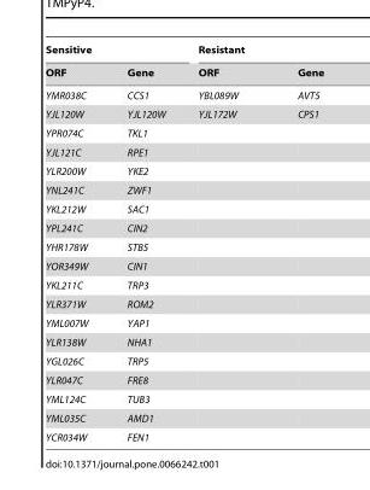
<table><thead><tr><td colspan="2">Sensitive</td><td colspan="2">Resistant</td></tr><tr><td>ORF</td><td>Gene</td><td>ORF</td><td>Gene</td></tr></thead><tbody><tr><td>YMR038C</td><td>CCS1</td><td>YBL089W</td><td>AVT5</td></tr><tr><td>YJL120W</td><td>YJL120W</td><td>YJL172W</td><td>CPS1</td></tr><tr><td>YPR074C</td><td>TKL1</td><td></td><td></td></tr><tr><td>YJL121C</td><td>RPE1</td><td></td><td></td></tr><tr><td>YLR200W</td><td>YKE2</td><td></td><td></td></tr><tr><td>YNL241C</td><td>ZWF1</td><td></td><td></td></tr><tr><td>YKL212W</td><td>SAC1</td><td></td><td></td></tr><tr><td>YPL241C</td><td>CIN2</td><td></td><td></td></tr><tr><td>YHR178W</td><td>STB5</td><td></td><td></td></tr><tr><td>YOR349W</td><td>CIN1</td><td></td><td></td></tr><tr><td>YKL211C</td><td>TRP3</td><td></td><td></td></tr><tr><td>YLR371W</td><td>ROM2</td><td></td><td></td></tr><tr><td>YML007W</td><td>YAP1</td><td></td><td></td></tr><tr><td>YLR138W</td><td>NHA1</td><td></td><td></td></tr><tr><td>YGL026C</td><td>TRP5</td><td></td><td></td></tr><tr><td>YLR047C</td><td>FRE8</td><td></td><td></td></tr><tr><td>YML124C</td><td>TUB3</td><td></td><td></td></tr><tr><td>YML035C</td><td>AMD1</td><td></td><td></td></tr><tr><td>YCR034W</td><td>FEN1</td><td></td><td></td></tr></tbody></table>